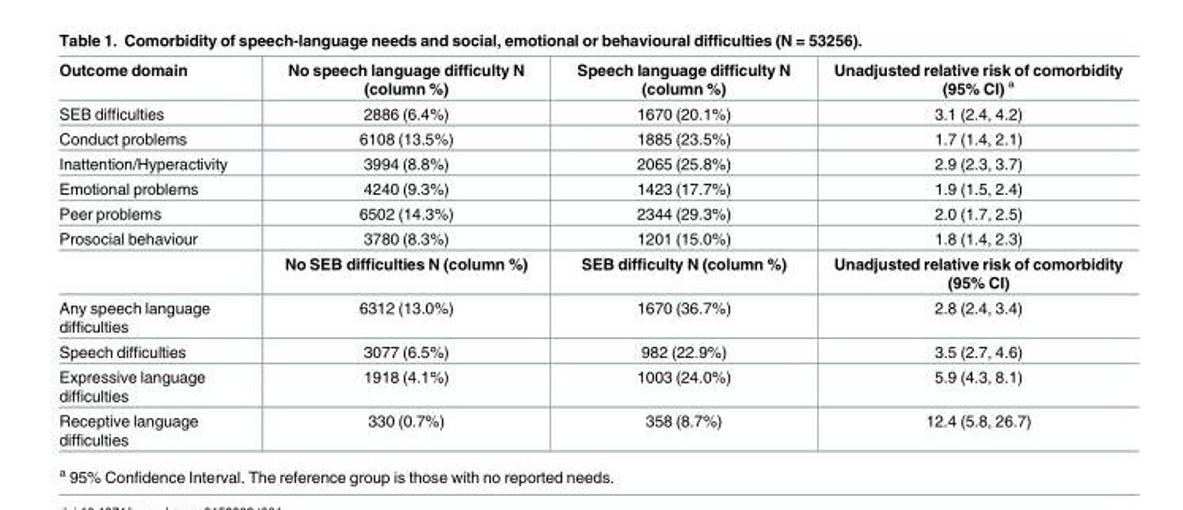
<table><tbody><tr><td>Outcome domain</td><td>No speech language difficulty N (column %)</td><td>Speech language difficulty N (column %)</td><td>Unadjusted relative risk of comorbidity (95% CI) <sup>a</sup></td></tr><tr><td>SEB difficulties</td><td>2886 (6.4%)</td><td>1670 (20.1%)</td><td>3.1 (2.4, 4.2)</td></tr><tr><td>Conduct problems</td><td>6108 (13.5%)</td><td>1885 (23.5%)</td><td>1.7 (1.4, 2.1)</td></tr><tr><td>Inattention/Hyperactivity</td><td>3994 (8.8%)</td><td>2065 (25.8%)</td><td>2.9 (2.3, 3.7)</td></tr><tr><td>Emotional problems</td><td>4240 (9.3%)</td><td>1423 (17.7%)</td><td>1.9 (1.5, 2.4)</td></tr><tr><td>Peer problems</td><td>6502 (14.3%)</td><td>2344 (29.3%)</td><td>2.0 (1.7, 2.5)</td></tr><tr><td rowspan="2">Prosocial behaviour</td><td>3780 (8.3%)</td><td>1201 (15.0%)</td><td>1.8 (1.4, 2.3)</td></tr><tr><td>No SEB difficulties N (column %)</td><td>SEB difficulty N (column %)</td><td>Unadjusted relative risk of comorbidity (95% CI)</td></tr><tr><td>Any speech language difficulties</td><td>6312 (13.0%)</td><td>1670 (36.7%)</td><td>2.8 (2.4, 3.4)</td></tr><tr><td>Speech difficulties</td><td>3077 (6.5%)</td><td>982 (22.9%)</td><td>3.5 (2.7, 4.6)</td></tr><tr><td>Expressive language difficulties</td><td>1918 (4.1%)</td><td>1003 (24.0%)</td><td>5.9 (4.3, 8.1)</td></tr><tr><td>Receptive language difficulties</td><td>330 (0.7%)</td><td>358 (8.7%)</td><td>12.4 (5.8, 26.7)</td></tr></tbody></table>